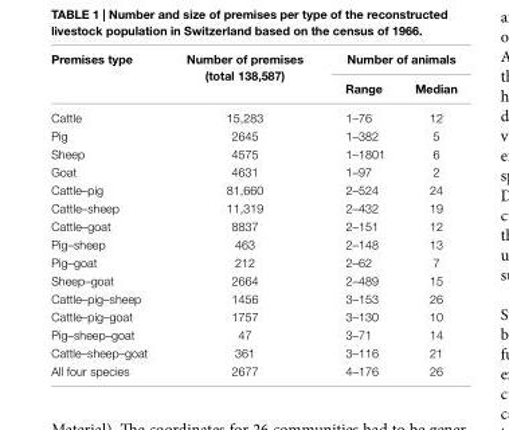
<table><thead><tr><td rowspan="2">Premises type</td><td rowspan="2">number of premises (total 138,587)</td><td colspan="2">number of animals</td></tr><tr><td>range</td><td>Median</td></tr></thead><tbody><tr><td>Cattle</td><td>15,283</td><td>1–76</td><td>12</td></tr><tr><td>Pig</td><td>2645</td><td>1–382</td><td>5</td></tr><tr><td>Sheep</td><td>4575</td><td>1–1801</td><td>6</td></tr><tr><td>Goat</td><td>4631</td><td>1–97</td><td>2</td></tr><tr><td>Cattle–pig</td><td>81,660</td><td>2–524</td><td>24</td></tr><tr><td>Cattle–sheep</td><td>11,319</td><td>2–432</td><td>19</td></tr><tr><td>Cattle–goat</td><td>8837</td><td>2–151</td><td>12</td></tr><tr><td>Pig–sheep</td><td>463</td><td>2–148</td><td>13</td></tr><tr><td>Pig–goat</td><td>212</td><td>2–62</td><td>7</td></tr><tr><td>Sheep–goat</td><td>2664</td><td>2–489</td><td>15</td></tr><tr><td>Cattle–pig–sheep</td><td>1456</td><td>3–153</td><td>26</td></tr><tr><td>Cattle–pig–goat</td><td>1757</td><td>3–130</td><td>10</td></tr><tr><td>Pig–sheep–goat</td><td>47</td><td>3–71</td><td>14</td></tr><tr><td>Cattle–sheep–goat</td><td>361</td><td>3–116</td><td>21</td></tr><tr><td>All four species</td><td>2677</td><td>4–176</td><td>26</td></tr></tbody></table>